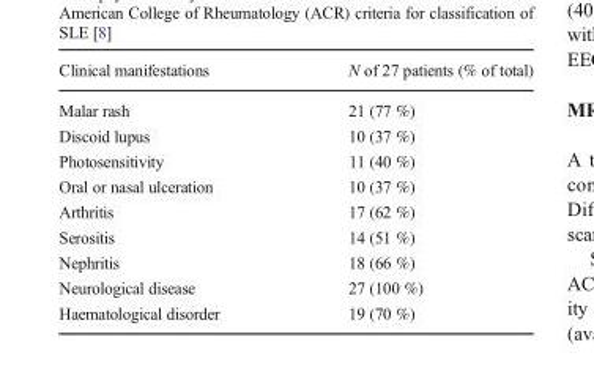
<table><thead><tr><td>Clinical manifestations</td><td>N of 27 patients (% of total)</td></tr></thead><tbody><tr><td>Malar rash</td><td>21 (77 %)</td></tr><tr><td>Discoid lupus</td><td>10 (37 %)</td></tr><tr><td>Photosensitivity</td><td>11 (40 %)</td></tr><tr><td>Oral or nasal ulceration</td><td>10 (37 %)</td></tr><tr><td>Arthritis</td><td>17 (62 %)</td></tr><tr><td>Serositis</td><td>14 (51 %)</td></tr><tr><td>Nephritis</td><td>18 (66 %)</td></tr><tr><td>Neurological disease</td><td>27 (100 %)</td></tr><tr><td>Haematological disorder</td><td>19 (70 %)</td></tr></tbody></table>